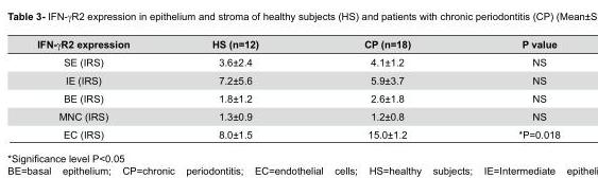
<table><thead><tr><td>IFN-γR2 expression</td><td>HS (n=12)</td><td>CP (n=18)</td><td>P value</td></tr></thead><tbody><tr><td>SE (IRS)</td><td>3.6±2.4</td><td>4.1±1.2</td><td>NS</td></tr><tr><td>IE (IRS)</td><td>7.2±5.6</td><td>5.9±3.7</td><td>NS</td></tr><tr><td>BE (IRS)</td><td>1.8±1.2</td><td>2.6±1.8</td><td>NS</td></tr><tr><td>MNC (IRS)</td><td>1.3±0.9</td><td>1.2±0.8</td><td>NS</td></tr><tr><td>EC (IRS)</td><td>8.0±1.5</td><td>15.0±1.2</td><td>*P=0.018</td></tr></tbody></table>